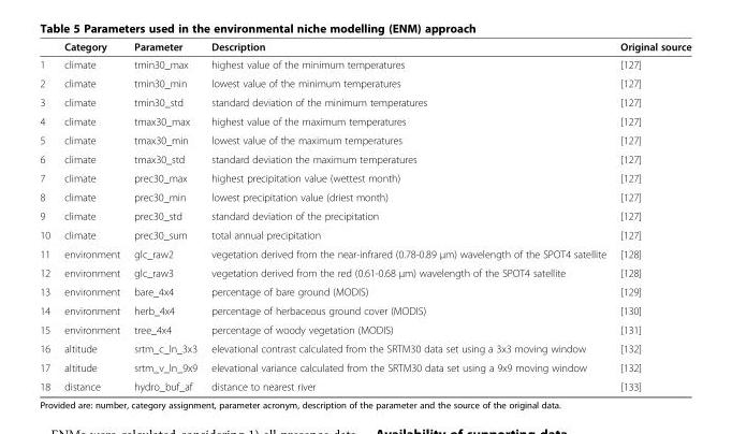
<table><thead><tr><td></td><td>Category</td><td>Parameter</td><td>Description</td><td>Original source</td></tr></thead><tbody><tr><td>1</td><td>climate</td><td>tmin30_max</td><td>highest value of the minimum temperatures</td><td>[127]</td></tr><tr><td>2</td><td>climate</td><td>tmin30_min</td><td>lowest value of the minimum temperatures</td><td>[127]</td></tr><tr><td>3</td><td>climate</td><td>tmin30_std</td><td>standard deviation of the minimum temperatures</td><td>[127]</td></tr><tr><td>4</td><td>climate</td><td>tmax30_max</td><td>highest value of the maximum temperatures</td><td>[127]</td></tr><tr><td>5</td><td>climate</td><td>tmax30_min</td><td>lowest value of the maximum temperatures</td><td>[127]</td></tr><tr><td>6</td><td>climate</td><td>tmax30_std</td><td>standard deviation the maximum temperatures</td><td>[127]</td></tr><tr><td>7</td><td>climate</td><td>prec30_max</td><td>highest precipitation value (wettest month)</td><td>[127]</td></tr><tr><td>8</td><td>climate</td><td>prec30_min</td><td>lowest precipitation value (driest month)</td><td>[127]</td></tr><tr><td>9</td><td>climate</td><td>prec30_std</td><td>standard deviation of the precipitation</td><td>[127]</td></tr><tr><td>10</td><td>climate</td><td>prec30_sum</td><td>total annual precipitation</td><td>[127]</td></tr><tr><td>11</td><td>environment</td><td>glc_raw2</td><td>vegetation derived from the near-infrared (0.78-0.89 μm) wavelength of the SPOT4 satellite</td><td>[128]</td></tr><tr><td>12</td><td>environment</td><td>glc_raw3</td><td>vegetation derived from the red (0.61-0.68 μm) wavelength of the SPOT4 satellite</td><td>[128]</td></tr><tr><td>13</td><td>environment</td><td>bare_4x4</td><td>percentage of bare ground (MODIS)</td><td>[129]</td></tr><tr><td>14</td><td>environment</td><td>herb_4x4</td><td>percentage of herbaceous ground cover (MODIS)</td><td>[130]</td></tr><tr><td>15</td><td>environment</td><td>tree_4x4</td><td>percentage of woody vegetation (MODIS)</td><td>[131]</td></tr><tr><td>16</td><td>altitude</td><td>srtm_c_ln_3x3</td><td>elevational contrast calculated from the SRTM30 data set using a 3x3 moving window</td><td>[132]</td></tr><tr><td>17</td><td>altitude</td><td>srtm_v_ln_9x9</td><td>elevational variance calculated from the SRTM30 data set using a 9x9 moving window</td><td>[132]</td></tr><tr><td>18</td><td>distance</td><td>hydro_buf_af</td><td>distance to nearest river</td><td>[133]</td></tr></tbody></table>